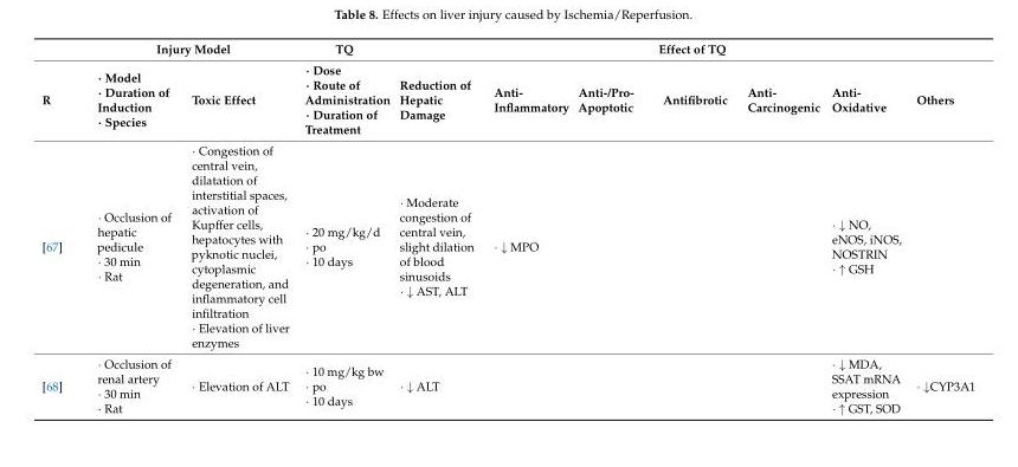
<table><thead><tr><td rowspan="2">R</td><td colspan="2">Injury Model</td><td rowspan="2">TQ · Dose · Route of Administration · Duration of Treatment</td><td colspan="7">Effect of TQ</td></tr><tr><td>· Model · Duration of Induction · Species</td><td>Toxic Effect</td><td>Reduction of Hepatic Damage</td><td>Anti- Inflammatory</td><td>Anti-/Pro- Apoptotic</td><td>Antifibrotic</td><td>Anti- Carcinogenic</td><td>Anti- Oxidative</td><td>Others</td></tr></thead><tbody><tr><td>[67]</td><td>· Occlusion of hepatic pedicule · 30 min · Rat</td><td>· Congestion of central vein, dilatation of interstitial spaces, activation of Kupffer cells, hepatocytes with pyknotic nuclei, cytoplasmic degeneration, and inflammatory cell infiltration · Elevation of liver enzymes</td><td>· 20 mg/kg/d · po · 10 days</td><td>· Moderate congestion of central vein, slight dilation of blood sinusoids · ↓ AST, ALT</td><td>· ↓ MPO</td><td></td><td></td><td></td><td>· ↓ NO, eNOS, iNOS, NOSTRIN · ↑ GSH</td><td></td></tr><tr><td>[68]</td><td>· Occlusion of renal artery · 30 min · Rat</td><td>· Elevation of ALT</td><td>· 10 mg/kg bw · po · 10 days</td><td>· ↓ ALT</td><td></td><td></td><td></td><td></td><td>· ↓ MDA, SSAT mRNA expression · ↑ GST, SOD</td><td>· ↓CYP3A1</td></tr></tbody></table>